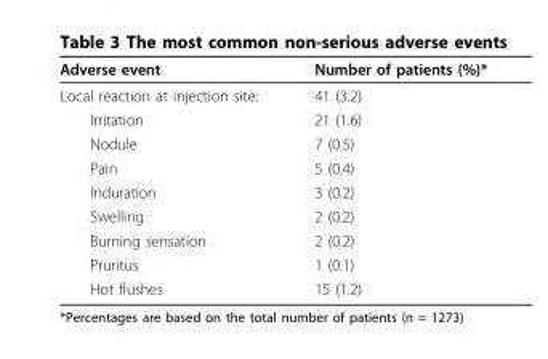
<table><thead><tr><td>Adverse event</td><td>Number of patients (%)*</td></tr></thead><tbody><tr><td>Local reaction at injection site:</td><td>41 (3.2)</td></tr><tr><td>Irritation</td><td>21 (1.6)</td></tr><tr><td>Nodule</td><td>7 (0.5)</td></tr><tr><td>Pain</td><td>5 (0.4)</td></tr><tr><td>Induration</td><td>3 (0.2)</td></tr><tr><td>Swelling</td><td>2 (0.2)</td></tr><tr><td>Burning sensation</td><td>2 (0.2)</td></tr><tr><td>Pruritus</td><td>1 (0.1)</td></tr><tr><td>Hot flushes</td><td>15 (1.2)</td></tr></tbody></table>